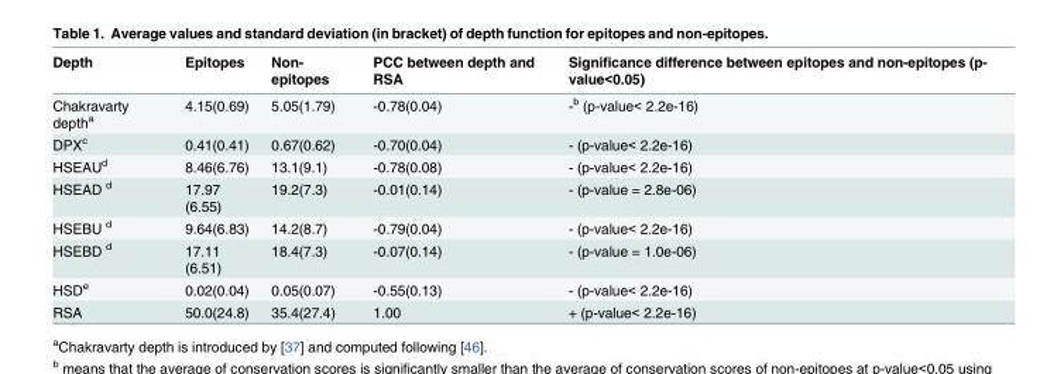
<table><thead><tr><td>Depth</td><td>Epitopes</td><td>Non- epitopes</td><td>PCC between depth and RSA</td><td>Significance difference between epitopes and non-epitopes (p- value&lt;0.05)</td></tr></thead><tbody><tr><td>Chakravarty depth<sup>a</sup></td><td>4.15(0.69)</td><td>5.05(1.79)</td><td>-0.78(0.04)</td><td>-<sup>b</sup> (p-value&lt; 2.2e-16)</td></tr><tr><td>DPX<sup>c</sup></td><td>0.41(0.41)</td><td>0.67(0.62)</td><td>-0.70(0.04)</td><td>- (p-value&lt; 2.2e-16)</td></tr><tr><td>HSEAU<sup>d</sup></td><td>8.46(6.76)</td><td>13.1(9.1)</td><td>-0.78(0.08)</td><td>- (p-value&lt; 2.2e-16)</td></tr><tr><td>HSEAD <sup>d</sup></td><td>17.97 (6.55)</td><td>19.2(7.3)</td><td>-0.01(0.14)</td><td>- (p-value = 2.8e-06)</td></tr><tr><td>HSEBU <sup>d</sup></td><td>9.64(6.83)</td><td>14.2(8.7)</td><td>-0.79(0.04)</td><td>- (p-value&lt; 2.2e-16)</td></tr><tr><td>HSEBD <sup>d</sup></td><td>17.11 (6.51)</td><td>18.4(7.3)</td><td>-0.07(0.14)</td><td>- (p-value = 1.0e-06)</td></tr><tr><td>HSD<sup>e</sup></td><td>0.02(0.04)</td><td>0.05(0.07)</td><td>-0.55(0.13)</td><td>- (p-value&lt; 2.2e-16)</td></tr><tr><td>RSA</td><td>50.0(24.8)</td><td>35.4(27.4)</td><td>1.00</td><td>+ (p-value&lt; 2.2e-16)</td></tr></tbody></table>